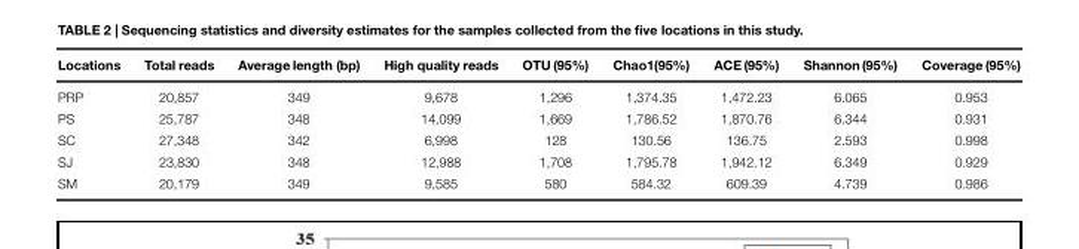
<table><thead><tr><td>Locations</td><td>Total reads</td><td>Average length (bp)</td><td>High quality reads</td><td>OTU (95%)</td><td>Chao1(95%)</td><td>ACE (95%)</td><td>Shannon(95%)</td><td>Coverage (95%)</td></tr></thead><tbody><tr><td>PRP</td><td>20,857</td><td>349</td><td>9,678</td><td>1,296</td><td>1,374.35</td><td>1,472.23</td><td>6.065</td><td>0.953</td></tr><tr><td>PS</td><td>25,787</td><td>348</td><td>14,099</td><td>1,669</td><td>1,786.52</td><td>1,870.76</td><td>6.344</td><td>0.931</td></tr><tr><td>SC</td><td>27,348</td><td>342</td><td>6,998</td><td>128</td><td>130.56</td><td>136.75</td><td>2.593</td><td>0.998</td></tr><tr><td>SJ</td><td>23,830</td><td>348</td><td>12,988</td><td>1,708</td><td>1,795.78</td><td>1,942.12</td><td>6.349</td><td>0.929</td></tr><tr><td>SM</td><td>20,179</td><td>349</td><td>9,585</td><td>580</td><td>584.32</td><td>609.39</td><td>4.739</td><td>0.986</td></tr></tbody></table>